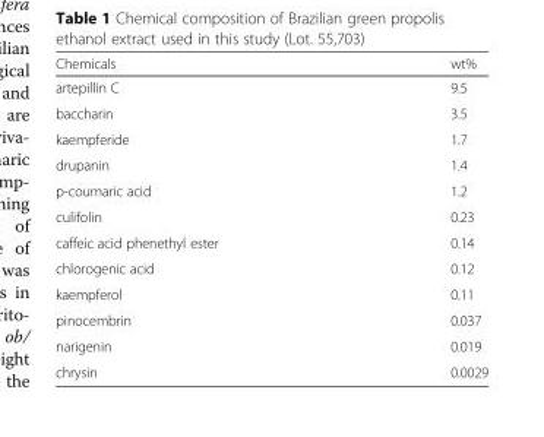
<table><thead><tr><td>Chemicals</td><td>wt%</td></tr></thead><tbody><tr><td>artepillin C</td><td>9.5</td></tr><tr><td>baccharin</td><td>3.5</td></tr><tr><td>kaempferide</td><td>1.7</td></tr><tr><td>drupanin</td><td>1.4</td></tr><tr><td>p-coumaric acid</td><td>1.2</td></tr><tr><td>culifolin</td><td>0.23</td></tr><tr><td>caffeic acid phenethyl ester</td><td>0.14</td></tr><tr><td>chlorogenic acid</td><td>0.12</td></tr><tr><td>kaempferol</td><td>0.11</td></tr><tr><td>pinocembrin</td><td>0.037</td></tr><tr><td>narigenin</td><td>0.019</td></tr><tr><td>chrysin</td><td>0.0029</td></tr></tbody></table>